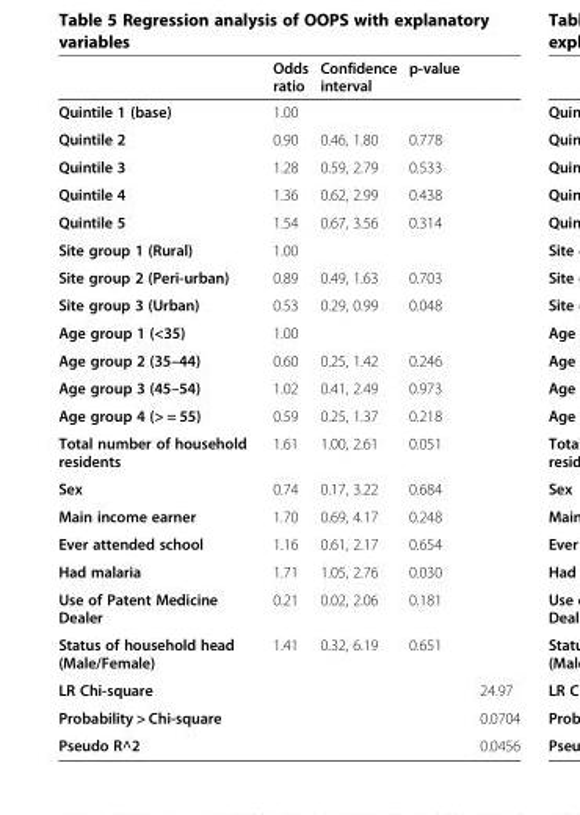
<table><thead><tr><td></td><td>Odds ratio</td><td>Confidence interval</td><td>p-value</td><td></td></tr></thead><tbody><tr><td>Quintile 1 (base)</td><td>1.00</td><td></td><td></td><td></td></tr><tr><td>Quintile 2</td><td>0.90</td><td>0.46, 1.80</td><td>0.778</td><td></td></tr><tr><td>Quintile 3</td><td>1.28</td><td>0.59, 2.79</td><td>0.533</td><td></td></tr><tr><td>Quintile 4</td><td>1.36</td><td>0.62, 2.99</td><td>0.438</td><td></td></tr><tr><td>Quintile 5</td><td>1.54</td><td>0.67, 3.56</td><td>0.314</td><td></td></tr><tr><td>Site group 1 (Rural)</td><td>1.00</td><td></td><td></td><td></td></tr><tr><td>Site group 2 (Peri-urban)</td><td>0.89</td><td>0.49, 1.63</td><td>0.703</td><td></td></tr><tr><td>Site group 3 (Urban)</td><td>0.53</td><td>0.29, 0.99</td><td>0.048</td><td></td></tr><tr><td>Age group 1 (&lt;35)</td><td>1.00</td><td></td><td></td><td></td></tr><tr><td>Age group 2 (35–44)</td><td>0.60</td><td>0.25, 1.42</td><td>0.246</td><td></td></tr><tr><td>Age group 3 (45–54)</td><td>1.02</td><td>0.41, 2.49</td><td>0.973</td><td></td></tr><tr><td>Age group 4 (&gt; = 55)</td><td>0.59</td><td>0.25, 1.37</td><td>0.218</td><td></td></tr><tr><td>Total number of household residents</td><td>1.61</td><td>1.00, 2.61</td><td>0.051</td><td></td></tr><tr><td>Sex</td><td>0.74</td><td>0.17, 3.22</td><td>0.684</td><td></td></tr><tr><td>Main income earner</td><td>1.70</td><td>0.69, 4.17</td><td>0.248</td><td></td></tr><tr><td>Ever attended school</td><td>1.16</td><td>0.61, 2.17</td><td>0.654</td><td></td></tr><tr><td>Had malaria</td><td>1.71</td><td>1.05, 2.76</td><td>0.030</td><td></td></tr><tr><td>Use of Patent Medicine Dealer</td><td>0.21</td><td>0.02, 2.06</td><td>0.181</td><td></td></tr><tr><td>Status of household head (Male/Female)</td><td>1.41</td><td>0.32, 6.19</td><td>0.651</td><td></td></tr><tr><td>LR Chi-square</td><td></td><td></td><td></td><td>24.97</td></tr><tr><td>Probability &gt; Chi-square</td><td></td><td></td><td></td><td>0.0704</td></tr><tr><td>Pseudo R^2</td><td></td><td></td><td></td><td>0.0456</td></tr></tbody></table>